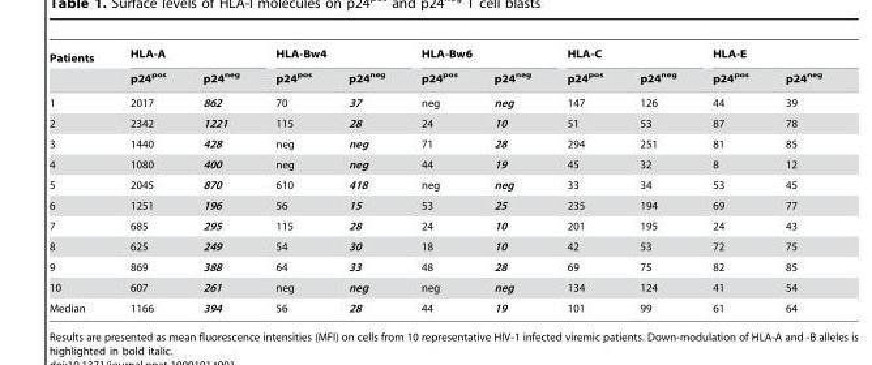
<table><thead><tr><td rowspan="2">Patients</td><td colspan="2">HLA-A</td><td colspan="2">HLA-Bw4</td><td colspan="2">HLA-Bw6</td><td colspan="2">HLA-C</td><td colspan="2">HLA-E</td></tr><tr><td>p24<sup>pos</sup></td><td>p24<sup>neg</sup></td><td>p24<sup>pos</sup></td><td>p24<sup>neg</sup></td><td>p24<sup>pos</sup></td><td>p24<sup>neg</sup></td><td>p24<sup>pos</sup></td><td>p24<sup>neg</sup></td><td>p24<sup>pos</sup></td><td>p24<sup>neg</sup></td></tr></thead><tbody><tr><td>1</td><td>2017</td><td>862</td><td>70</td><td>37</td><td>neg</td><td>neg</td><td>147</td><td>126</td><td>44</td><td>39</td></tr><tr><td>2</td><td>2342</td><td>1221</td><td>115</td><td>28</td><td>24</td><td>10</td><td>51</td><td>53</td><td>87</td><td>78</td></tr><tr><td>3</td><td>1440</td><td>428</td><td>neg</td><td>neg</td><td>71</td><td>28</td><td>294</td><td>251</td><td>81</td><td>85</td></tr><tr><td>4</td><td>1080</td><td>400</td><td>neg</td><td>neg</td><td>44</td><td>19</td><td>45</td><td>32</td><td>8</td><td>12</td></tr><tr><td>5</td><td>2045</td><td>870</td><td>610</td><td>418</td><td>neg</td><td>neg</td><td>33</td><td>34</td><td>53</td><td>45</td></tr><tr><td>6</td><td>1251</td><td>196</td><td>56</td><td>15</td><td>53</td><td>25</td><td>235</td><td>194</td><td>69</td><td>77</td></tr><tr><td>7</td><td>685</td><td>295</td><td>115</td><td>28</td><td>24</td><td>10</td><td>201</td><td>195</td><td>24</td><td>43</td></tr><tr><td>8</td><td>625</td><td>249</td><td>54</td><td>30</td><td>18</td><td>10</td><td>42</td><td>53</td><td>72</td><td>75</td></tr><tr><td>9</td><td>869</td><td>388</td><td>64</td><td>33</td><td>48</td><td>28</td><td>69</td><td>75</td><td>82</td><td>85</td></tr><tr><td>10</td><td>607</td><td>261</td><td>neg</td><td>neg</td><td>neg</td><td>neg</td><td>134</td><td>124</td><td>41</td><td>54</td></tr><tr><td>Median</td><td>1166</td><td>394</td><td>56</td><td>28</td><td>44</td><td>19</td><td>101</td><td>99</td><td>61</td><td>64</td></tr></tbody></table>